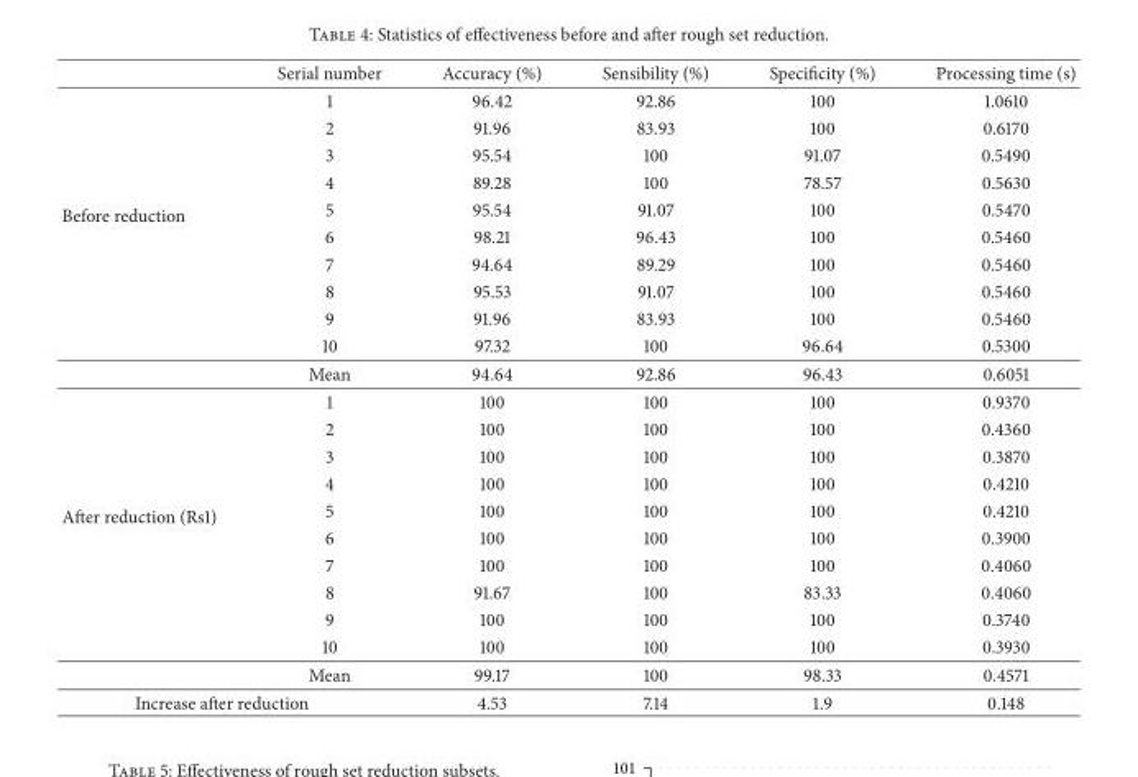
<table><thead><tr><td></td><td>Serial number</td><td>Accuracy (%)</td><td>Sensibility (%)</td><td>Specificity (%)</td><td>Processing time (s)</td></tr></thead><tbody><tr><td rowspan="11">Before reduction</td><td>1</td><td>96.42</td><td>92.86</td><td>100</td><td>1.0610</td></tr><tr><td>2</td><td>91.96</td><td>83.93</td><td>100</td><td>0.6170</td></tr><tr><td>3</td><td>95.54</td><td>100</td><td>91.07</td><td>0.5490</td></tr><tr><td>4</td><td>89.28</td><td>100</td><td>78.57</td><td>0.5630</td></tr><tr><td>5</td><td>95.54</td><td>91.07</td><td>100</td><td>0.5470</td></tr><tr><td>6</td><td>98.21</td><td>96.43</td><td>100</td><td>0.5460</td></tr><tr><td>7</td><td>94.64</td><td>89.29</td><td>100</td><td>0.5460</td></tr><tr><td>8</td><td>95.53</td><td>91.07</td><td>100</td><td>0.5460</td></tr><tr><td>9</td><td>91.96</td><td>83.93</td><td>100</td><td>0.5460</td></tr><tr><td>10</td><td>97.32</td><td>100</td><td>96.64</td><td>0.5300</td></tr><tr><td>Mean</td><td>94.64</td><td>92.86</td><td>96.43</td><td>0.6051</td></tr><tr><td rowspan="11">After reduction (Rs1)</td><td>1</td><td>100</td><td>100</td><td>100</td><td>0.9370</td></tr><tr><td>2</td><td>100</td><td>100</td><td>100</td><td>0.4360</td></tr><tr><td>3</td><td>100</td><td>100</td><td>100</td><td>0.3870</td></tr><tr><td>4</td><td>100</td><td>100</td><td>100</td><td>0.4210</td></tr><tr><td>5</td><td>100</td><td>100</td><td>100</td><td>0.4210</td></tr><tr><td>6</td><td>100</td><td>100</td><td>100</td><td>0.3900</td></tr><tr><td>7</td><td>100</td><td>100</td><td>100</td><td>0.4060</td></tr><tr><td>8</td><td>91.67</td><td>100</td><td>83.33</td><td>0.4060</td></tr><tr><td>9</td><td>100</td><td>100</td><td>100</td><td>0.3740</td></tr><tr><td>10</td><td>100</td><td>100</td><td>100</td><td>0.3930</td></tr><tr><td>Mean</td><td>99.17</td><td>100</td><td>98.33</td><td>0.4571</td></tr><tr><td colspan="2">Increase after reduction</td><td>4.53</td><td>7.14</td><td>1.9</td><td>0.148</td></tr></tbody></table>